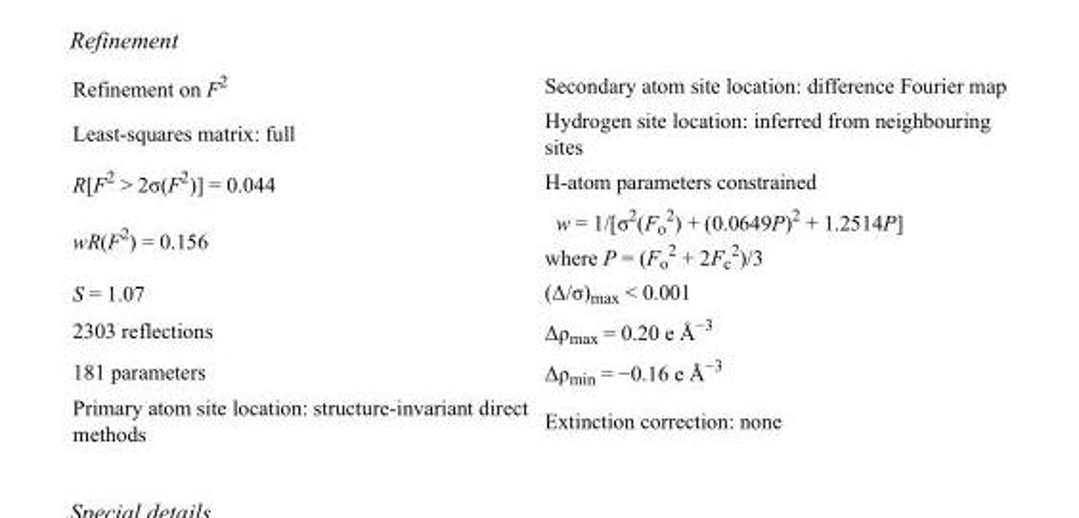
<table><tbody><tr><td>Refinement on F<sup>2</sup></td><td>Secondary atom site location: difference Fourier map</td></tr><tr><td>Least-squares matrix: full</td><td>Hydrogen site location: inferred from neighbouring sites</td></tr><tr><td>R[F<sup>2</sup> &gt; 2σ(F<sup>2</sup>)] = 0.044</td><td>H-atom parameters constrained</td></tr><tr><td>wR(F<sup>2</sup>) = 0.156</td><td>w = 1/[σ<sup>2</sup>(F<sub>o</sub> <sup>2</sup>) + (0.0649P)<sup>2</sup> + 1.2514P] where P = (F<sub>o</sub> <sup>2</sup> + 2F<sub>c</sub> <sup>2</sup>)/3</td></tr><tr><td>S = 1.07</td><td>(Δ/σ)<sub>max</sub> &lt; 0.001</td></tr><tr><td>2303 reflections</td><td>Δρ<sub>max</sub> = 0.20 e Å<sup>−3</sup></td></tr><tr><td>181 parameters</td><td>Δρ<sub>min</sub> = −0.16 e Å<sup>−3</sup></td></tr><tr><td>Primary atom site location: structure-invariant direct methods</td><td>Extinction correction: none</td></tr></tbody></table>